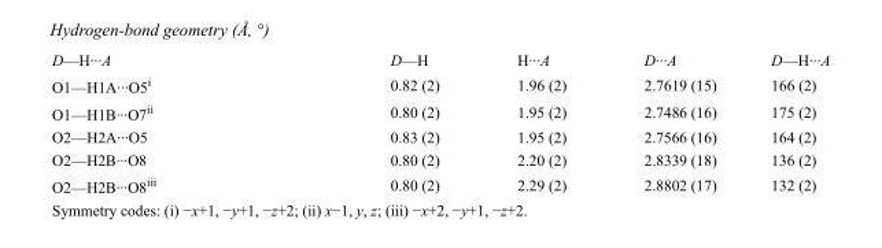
<table><tbody><tr><td>D—H···A</td><td>D—H</td><td>H···A</td><td>D···A</td><td>D—H···A</td></tr><tr><td>O1—H1A···O5<sup>i</sup></td><td>0.82 (2)</td><td>1.96 (2)</td><td>2.7619 (15)</td><td>166 (2)</td></tr><tr><td>O1—H1B···O7<sup>ii</sup></td><td>0.80 (2)</td><td>1.95 (2)</td><td>2.7486 (16)</td><td>175 (2)</td></tr><tr><td>O2—H2A···O5</td><td>0.83 (2)</td><td>1.95 (2)</td><td>2.7566 (16)</td><td>164 (2)</td></tr><tr><td>O2—H2B···O8</td><td>0.80 (2)</td><td>2.20 (2)</td><td>2.8339 (18)</td><td>136 (2)</td></tr><tr><td>O2—H2B···O8<sup>iii</sup></td><td>0.80 (2)</td><td>2.29 (2)</td><td>2.8802 (17)</td><td>132 (2)</td></tr></tbody></table>